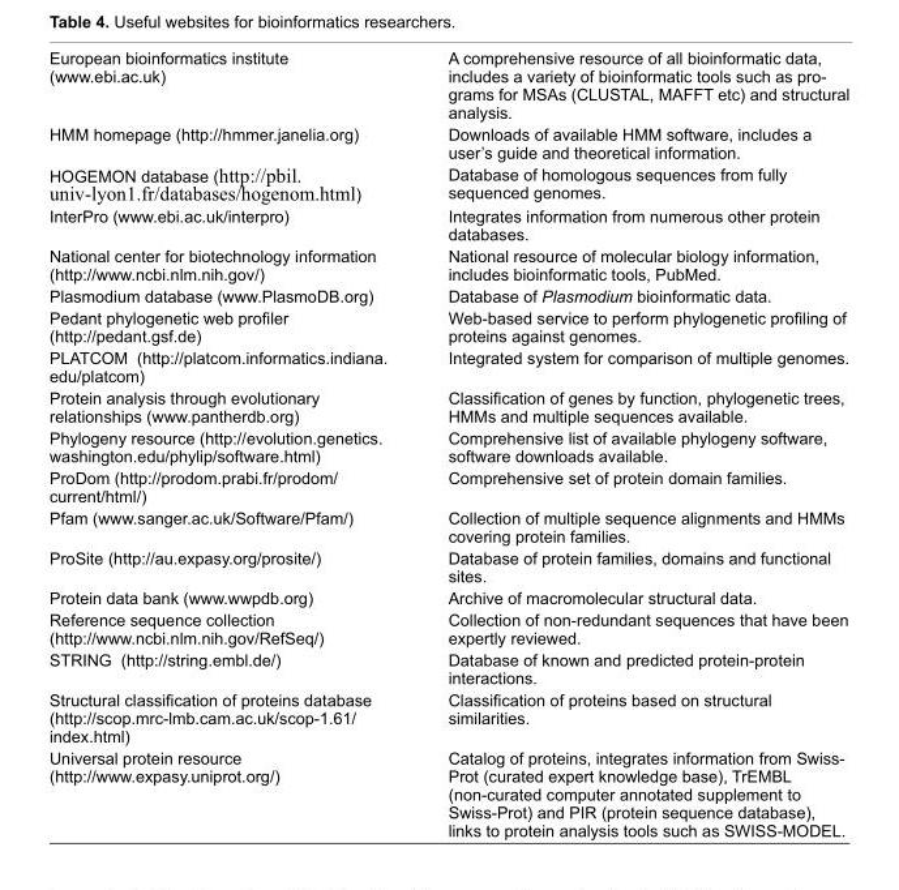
<table><tbody><tr><td>European bioinformatics institute (www.ebi.ac.uk)</td><td>A comprehensive resource of all bioinformatic data, includes a variety of bioinformatic tools such as pro- grams for MSAs (CLUSTAL, MAFFT etc) and structural analysis.</td></tr><tr><td>HMM homepage (http://hmmer.janelia.org)</td><td>Downloads of available HMM software, includes a user’s guide and theoretical information.</td></tr><tr><td>HOGEMON database (http://pbil. univ-lyon1.fr/databases/hogenom.html)</td><td>Database of homologous sequences from fully sequenced genomes.</td></tr><tr><td>InterPro (www.ebi.ac.uk/interpro)</td><td>Integrates information from numerous other protein databases.</td></tr><tr><td>National center for biotechnology information (http://www.ncbi.nlm.nih.gov/)</td><td>National resource of molecular biology information, includes bioinformatic tools, PubMed.</td></tr><tr><td>Plasmodium database (www.PlasmoDB.org)</td><td>Database of Plasmodium bioinformatic data.</td></tr><tr><td>Pedant phylogenetic web profi ler (http://pedant.gsf.de)</td><td>Web-based service to perform phylogenetic profi ling of proteins against genomes.</td></tr><tr><td>PLATCOM (http://platcom.informatics.indiana. edu/platcom)</td><td>Integrated system for comparison of multiple genomes.</td></tr><tr><td>Protein analysis through evolutionary relationships (www.pantherdb.org)</td><td>Classifi cation of genes by function, phylogenetic trees, HMMs and multiple sequences available.</td></tr><tr><td>Phylogeny resource (http://evolution.genetics. washington.edu/phylip/software.html)</td><td>Comprehensive list of available phylogeny software, software downloads available.</td></tr><tr><td>ProDom (http://prodom.prabi.fr/prodom/ current/html/)</td><td>Comprehensive set of protein domain families.</td></tr><tr><td>Pfam (www.sanger.ac.uk/Software/Pfam/)</td><td>Collection of multiple sequence alignments and HMMs covering protein families.</td></tr><tr><td>ProSite (http://au.expasy.org/prosite/)</td><td>Database of protein families, domains and functional sites.</td></tr><tr><td>Protein data bank (www.wwpdb.org)</td><td>Archive of macromolecular structural data.</td></tr><tr><td>Reference sequence collection (http://www.ncbi.nlm.nih.gov/RefSeq/)</td><td>Collection of non-redundant sequences that have been expertly reviewed.</td></tr><tr><td>STRING (http://string.embl.de/)</td><td>Database of known and predicted protein-protein interactions.</td></tr><tr><td>Structural classifi cation of proteins database (http://scop.mrc-lmb.cam.ac.uk/scop-1.61/ index.html)</td><td>Classifi cation of proteins based on structural similarities.</td></tr><tr><td>Universal protein resource (http://www.expasy.uniprot.org/)</td><td>Catalog of proteins, integrates information from Swiss- Prot (curated expert knowledge base), TrEMBL (non-curated computer annotated supplement to Swiss-Prot) and PIR (protein sequence database), links to protein analysis tools such as SWISS-MODEL.</td></tr></tbody></table>